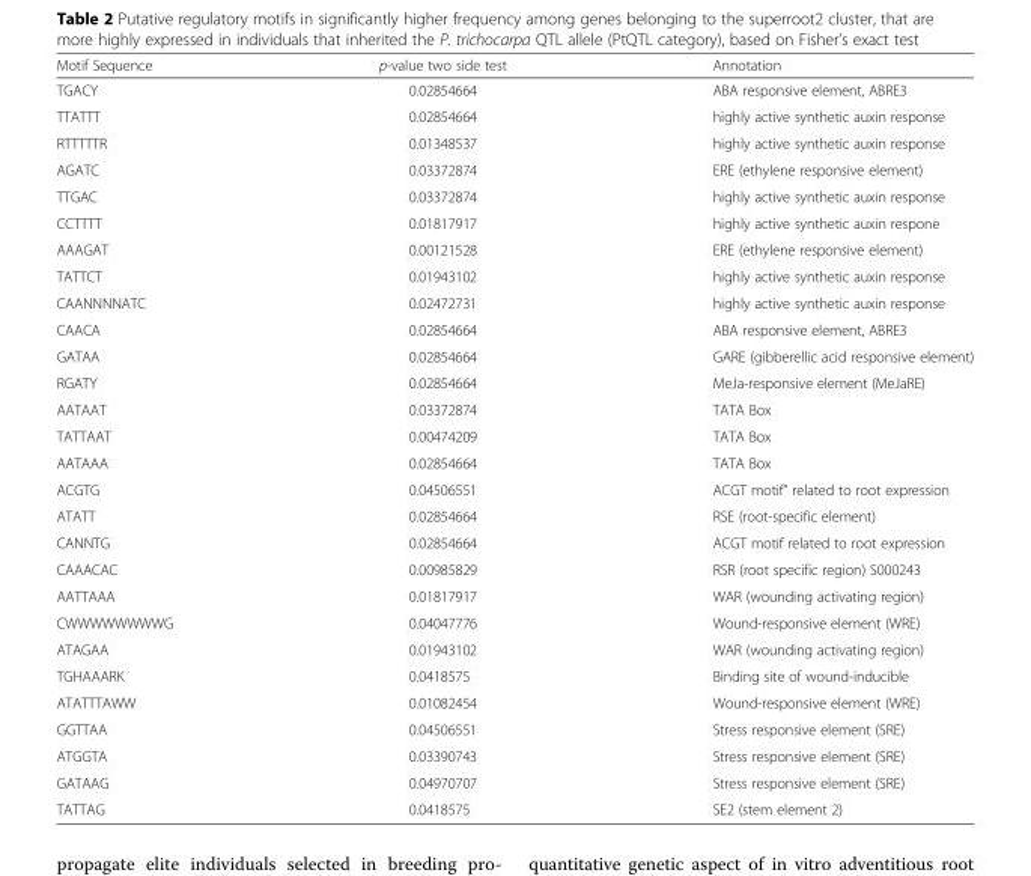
<table><thead><tr><td>Motif Sequence</td><td>p-value two side test</td><td>Annotation</td></tr></thead><tbody><tr><td>TGACY</td><td>0.02854664</td><td>ABA responsive element, ABRE3</td></tr><tr><td>TTATTT</td><td>0.02854664</td><td>highly active synthetic auxin response</td></tr><tr><td>RTTTTTR</td><td>0.01348537</td><td>highly active synthetic auxin response</td></tr><tr><td>AGATC</td><td>0.03372874</td><td>ERE (ethylene responsive element)</td></tr><tr><td>TTGAC</td><td>0.03372874</td><td>highly active synthetic auxin response</td></tr><tr><td>CCTTTT</td><td>0.01817917</td><td>highly active synthetic auxin respone</td></tr><tr><td>AAAGAT</td><td>0.00121528</td><td>ERE (ethylene responsive element)</td></tr><tr><td>TATTCT</td><td>0.01943102</td><td>highly active synthetic auxin response</td></tr><tr><td>CAANNNNATC</td><td>0.02472731</td><td>highly active synthetic auxin response</td></tr><tr><td>CAACA</td><td>0.02854664</td><td>ABA responsive element, ABRE3</td></tr><tr><td>GATAA</td><td>0.02854664</td><td>GARE (gibberellic acid responsive element)</td></tr><tr><td>RGATY</td><td>0.02854664</td><td>MeJa-responsive element (MeJaRE)</td></tr><tr><td>AATAAT</td><td>0.03372874</td><td>TATA Box</td></tr><tr><td>TATTAAT</td><td>0.00474209</td><td>TATA Box</td></tr><tr><td>AATAAA</td><td>0.02854664</td><td>TATA Box</td></tr><tr><td>ACGTG</td><td>0.04506551</td><td>ACGT motif” related to root expression</td></tr><tr><td>ATATT</td><td>0.02854664</td><td>RSE (root-specific element)</td></tr><tr><td>CANNTG</td><td>0.02854664</td><td>ACGT motif related to root expression</td></tr><tr><td>CAAACAC</td><td>0.00985829</td><td>RSR (root specific region) S000243</td></tr><tr><td>AATTAAA</td><td>0.01817917</td><td>WAR (wounding activating region)</td></tr><tr><td>CWWWWWWWWG</td><td>0.04047776</td><td>Wound-responsive element (WRE)</td></tr><tr><td>ATAGAA</td><td>0.01943102</td><td>WAR (wounding activating region)</td></tr><tr><td>TGHAAARK</td><td>0.0418575</td><td>Binding site of wound-inducible</td></tr><tr><td>ATATTTAWW</td><td>0.01082454</td><td>Wound-responsive element (WRE)</td></tr><tr><td>GGTTAA</td><td>0.04506551</td><td>Stress responsive element (SRE)</td></tr><tr><td>ATGGTA</td><td>0.03390743</td><td>Stress responsive element (SRE)</td></tr><tr><td>GATAAG</td><td>0.04970707</td><td>Stress responsive element (SRE)</td></tr><tr><td>TATTAG</td><td>0.0418575</td><td>SE2 (stem element 2)</td></tr></tbody></table>